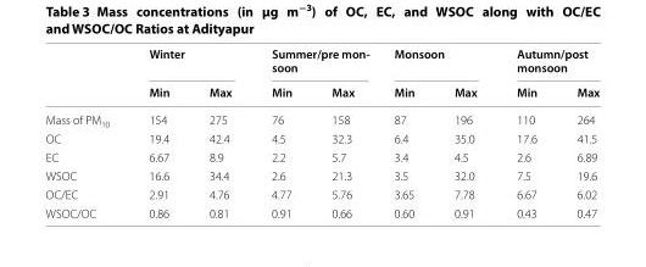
<table><thead><tr><td rowspan="2"></td><td colspan="2">Winter</td><td colspan="2">Summer/pre mon- soon</td><td colspan="2">Monsoon</td><td colspan="2">Autumn/post monsoon</td></tr><tr><td>Min</td><td>Max</td><td>Min</td><td>Max</td><td>Min</td><td>Max</td><td>Min</td><td>Max</td></tr></thead><tbody><tr><td>Mass of PM<sub>10</sub></td><td>154</td><td>275</td><td>76</td><td>158</td><td>87</td><td>196</td><td>110</td><td>264</td></tr><tr><td>OC</td><td>19.4</td><td>42.4</td><td>4.5</td><td>32.3</td><td>6.4</td><td>35.0</td><td>17.6</td><td>41.5</td></tr><tr><td>EC</td><td>6.67</td><td>8.9</td><td>2.2</td><td>5.7</td><td>3.4</td><td>4.5</td><td>2.6</td><td>6.89</td></tr><tr><td>WSOC</td><td>16.6</td><td>34.4</td><td>2.6</td><td>21.3</td><td>3.5</td><td>32.0</td><td>7.5</td><td>19.6</td></tr><tr><td>OC/EC</td><td>2.91</td><td>4.76</td><td>4.77</td><td>5.76</td><td>3.65</td><td>7.78</td><td>6.67</td><td>6.02</td></tr><tr><td>WSOC/OC</td><td>0.86</td><td>0.81</td><td>0.91</td><td>0.66</td><td>0.60</td><td>0.91</td><td>0.43</td><td>0.47</td></tr></tbody></table>